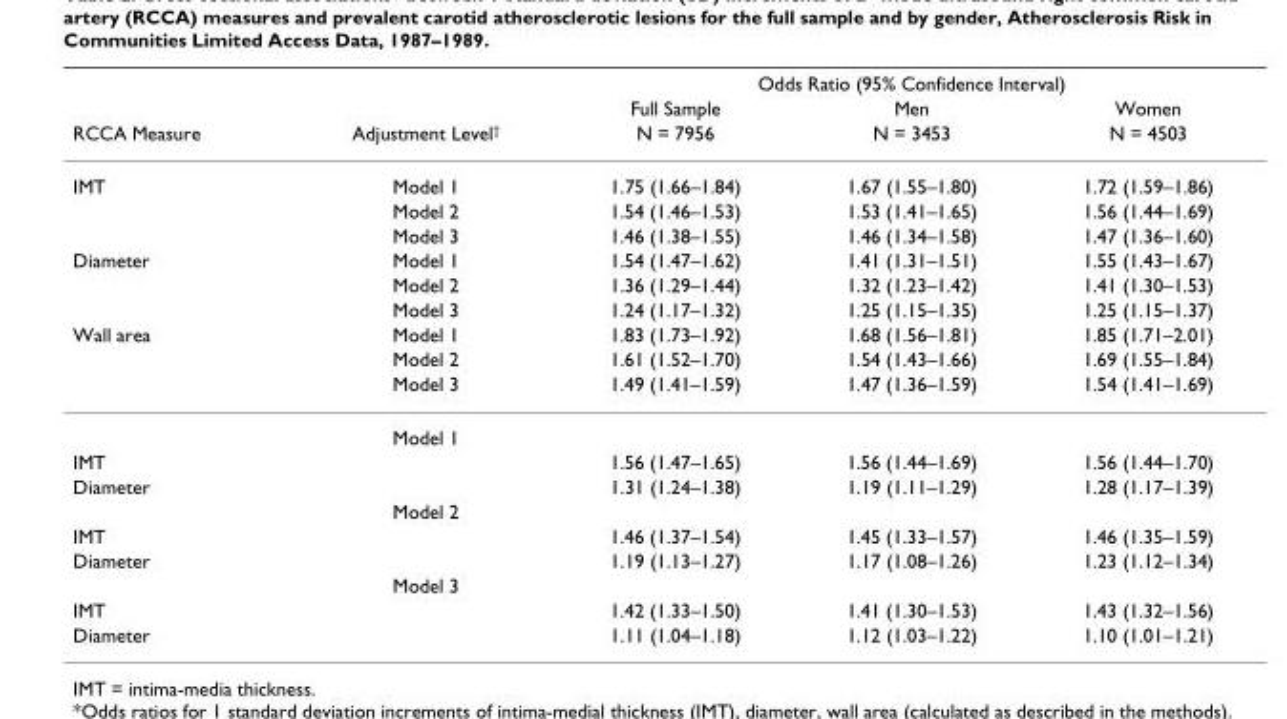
<table><thead><tr><td rowspan="3">RCCA Measure</td><td rowspan="3">Adjustment Level<sup>†</sup></td><td colspan="3">Odds Ratio (95% Confidence Interval)</td></tr><tr><td rowspan="2">Full Sample N = 7956</td><td rowspan="2">Men N = 3453</td><td rowspan="2">Women N = 4503</td></tr><tr></tr></thead><tbody><tr><td rowspan="3">IMT</td><td>Model 1</td><td>1.75 (1.66–1.84)</td><td>1.67 (1.55–1.80)</td><td>1.72 (1.59–1.86)</td></tr><tr><td>Model 2</td><td>1.54 (1.46–1.53)</td><td>1.53 (1.41–1.65)</td><td>1.56 (1.44–1.69)</td></tr><tr><td>Model 3</td><td>1.46 (1.38–1.55)</td><td>1.46 (1.34–1.58)</td><td>1.47 (1.36–1.60)</td></tr><tr><td rowspan="3">Diameter</td><td>Model 1</td><td>1.54 (1.47–1.62)</td><td>1.41 (1.31–1.51)</td><td>1.55 (1.43–1.67)</td></tr><tr><td>Model 2</td><td>1.36 (1.29–1.44)</td><td>1.32 (1.23–1.42)</td><td>1.41 (1.30–1.53)</td></tr><tr><td>Model 3</td><td>1.24 (1.17–1.32)</td><td>1.25 (1.15–1.35)</td><td>1.25 (1.15–1.37)</td></tr><tr><td rowspan="4">Wall area</td><td>Model 1</td><td>1.83 (1.73–1.92)</td><td>1.68 (1.56–1.81)</td><td>1.85 (1.71–2.01)</td></tr><tr><td>Model 2</td><td>1.61 (1.52–1.70)</td><td>1.54 (1.43–1.66)</td><td>1.69 (1.55–1.84)</td></tr><tr><td>Model 3</td><td>1.49 (1.41–1.59)</td><td>1.47 (1.36–1.59)</td><td>1.54 (1.41–1.69)</td></tr><tr><td>Model 1</td><td></td><td></td><td></td></tr><tr><td>IMT</td><td></td><td>1.56 (1.47–1.65)</td><td>1.56 (1.44–1.69)</td><td>1.56 (1.44–1.70)</td></tr><tr><td rowspan="2">Diameter</td><td></td><td>1.31 (1.24–1.38)</td><td>1.19 (1.11–1.29)</td><td>1.28 (1.17–1.39)</td></tr><tr><td>Model 2</td><td></td><td></td><td></td></tr><tr><td>IMT</td><td></td><td>1.46 (1.37–1.54)</td><td>1.45 (1.33–1.57)</td><td>1.46 (1.35–1.59)</td></tr><tr><td rowspan="2">Diameter</td><td></td><td>1.19 (1.13–1.27)</td><td>1.17 (1.08–1.26)</td><td>1.23 (1.12–1.34)</td></tr><tr><td>Model 3</td><td></td><td></td><td></td></tr><tr><td>IMT</td><td></td><td>1.42 (1.33–1.50)</td><td>1.41 (1.30–1.53)</td><td>1.43 (1.32–1.56)</td></tr><tr><td>Diameter</td><td></td><td>1.11 (1.04–1.18)</td><td>1.12 (1.03–1.22)</td><td>1.10 (1.01–1.21)</td></tr></tbody></table>